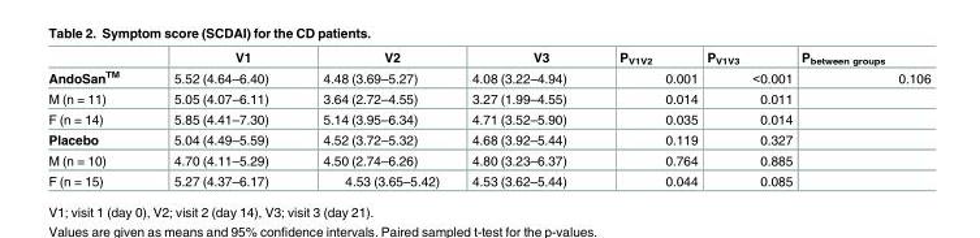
<table><thead><tr><td></td><td>V1</td><td>V2</td><td>V3</td><td>P<sub>V1V2</sub></td><td>P<sub>V1V3</sub></td><td>P<sub>between groups</sub></td></tr></thead><tbody><tr><td>AndoSan<sup>TM</sup></td><td>5.52 (4.64–6.40)</td><td>4.48 (3.69–5.27)</td><td>4.08 (3.22–4.94)</td><td>0.001</td><td>&lt;0.001</td><td>0.106</td></tr><tr><td>M (n = 11)</td><td>5.05 (4.07–6.11)</td><td>3.64 (2.72–4.55)</td><td>3.27 (1.99–4.55)</td><td>0.014</td><td>0.011</td><td></td></tr><tr><td>F (n = 14)</td><td>5.85 (4.41–7.30)</td><td>5.14 (3.95–6.34)</td><td>4.71 (3.52–5.90)</td><td>0.035</td><td>0.014</td><td></td></tr><tr><td>Placebo</td><td>5.04 (4.49–5.59)</td><td>4.52 (3.72–5.32)</td><td>4.68 (3.92–5.44)</td><td>0.119</td><td>0.327</td><td></td></tr><tr><td>M (n = 10)</td><td>4.70 (4.11–5.29)</td><td>4.50 (2.74–6.26)</td><td>4.80 (3.23–6.37)</td><td>0.764</td><td>0.885</td><td></td></tr><tr><td>F (n = 15)</td><td>5.27 (4.37–6.17)</td><td>4.53 (3.65–5.42)</td><td>4.53 (3.62–5.44)</td><td>0.044</td><td>0.085</td><td></td></tr></tbody></table>